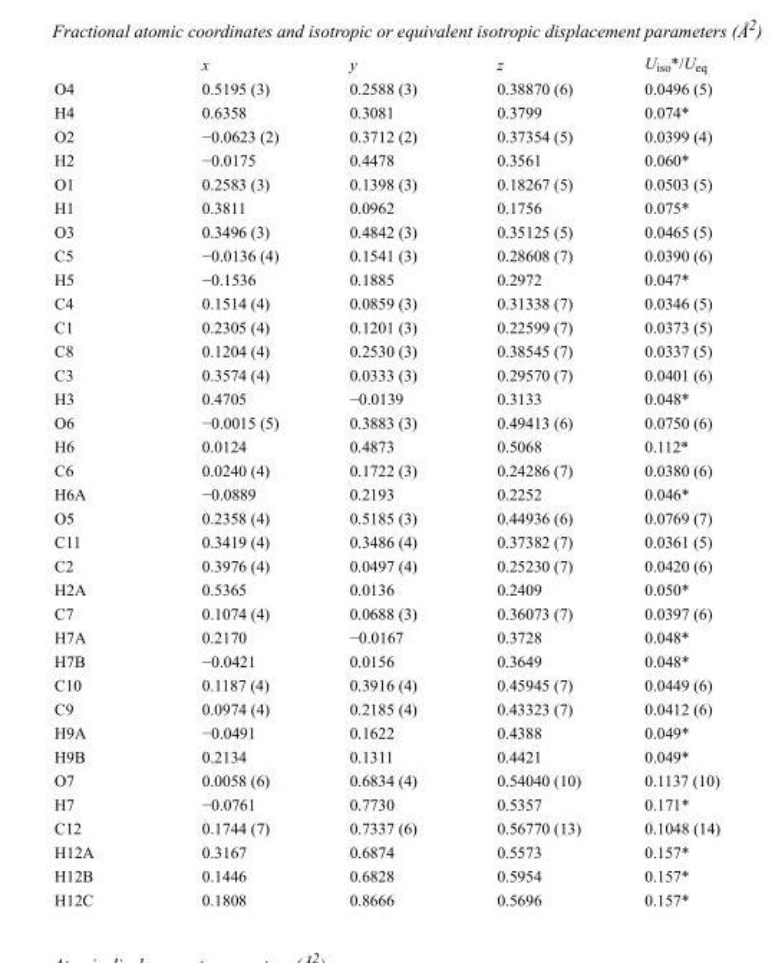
<table><thead><tr><td></td><td>x</td><td>y</td><td>z</td><td>U<sub>iso</sub>*/U<sub>eq</sub></td></tr></thead><tbody><tr><td>O4</td><td>0.5195 (3)</td><td>0.2588 (3)</td><td>0.38870 (6)</td><td>0.0496 (5)</td></tr><tr><td>H4</td><td>0.6358</td><td>0.3081</td><td>0.3799</td><td>0.074*</td></tr><tr><td>O2</td><td>−0.0623 (2)</td><td>0.3712 (2)</td><td>0.37354 (5)</td><td>0.0399 (4)</td></tr><tr><td>H2</td><td>−0.0175</td><td>0.4478</td><td>0.3561</td><td>0.060*</td></tr><tr><td>O1</td><td>0.2583 (3)</td><td>0.1398 (3)</td><td>0.18267 (5)</td><td>0.0503 (5)</td></tr><tr><td>H1</td><td>0.3811</td><td>0.0962</td><td>0.1756</td><td>0.075*</td></tr><tr><td>O3</td><td>0.3496 (3)</td><td>0.4842 (3)</td><td>0.35125 (5)</td><td>0.0465 (5)</td></tr><tr><td>C5</td><td>−0.0136 (4)</td><td>0.1541 (3)</td><td>0.28608 (7)</td><td>0.0390 (6)</td></tr><tr><td>H5</td><td>−0.1536</td><td>0.1885</td><td>0.2972</td><td>0.047*</td></tr><tr><td>C4</td><td>0.1514 (4)</td><td>0.0859 (3)</td><td>0.31338 (7)</td><td>0.0346 (5)</td></tr><tr><td>C1</td><td>0.2305 (4)</td><td>0.1201 (3)</td><td>0.22599 (7)</td><td>0.0373 (5)</td></tr><tr><td>C8</td><td>0.1204 (4)</td><td>0.2530 (3)</td><td>0.38545 (7)</td><td>0.0337 (5)</td></tr><tr><td>C3</td><td>0.3574 (4)</td><td>0.0333 (3)</td><td>0.29570 (7)</td><td>0.0401 (6)</td></tr><tr><td>H3</td><td>0.4705</td><td>−0.0139</td><td>0.3133</td><td>0.048*</td></tr><tr><td>O6</td><td>−0.0015 (5)</td><td>0.3883 (3)</td><td>0.49413 (6)</td><td>0.0750 (6)</td></tr><tr><td>H6</td><td>0.0124</td><td>0.4873</td><td>0.5068</td><td>0.112*</td></tr><tr><td>C6</td><td>0.0240 (4)</td><td>0.1722 (3)</td><td>0.24286 (7)</td><td>0.0380 (6)</td></tr><tr><td>H6A</td><td>−0.0889</td><td>0.2193</td><td>0.2252</td><td>0.046*</td></tr><tr><td>O5</td><td>0.2358 (4)</td><td>0.5185 (3)</td><td>0.44936 (6)</td><td>0.0769 (7)</td></tr><tr><td>C11</td><td>0.3419 (4)</td><td>0.3486 (4)</td><td>0.37382 (7)</td><td>0.0361 (5)</td></tr><tr><td>C2</td><td>0.3976 (4)</td><td>0.0497 (4)</td><td>0.25230 (7)</td><td>0.0420 (6)</td></tr><tr><td>H2A</td><td>0.5365</td><td>0.0136</td><td>0.2409</td><td>0.050*</td></tr><tr><td>C7</td><td>0.1074 (4)</td><td>0.0688 (3)</td><td>0.36073 (7)</td><td>0.0397 (6)</td></tr><tr><td>H7A</td><td>0.2170</td><td>−0.0167</td><td>0.3728</td><td>0.048*</td></tr><tr><td>H7B</td><td>−0.0421</td><td>0.0156</td><td>0.3649</td><td>0.048*</td></tr><tr><td>C10</td><td>0.1187 (4)</td><td>0.3916 (4)</td><td>0.45945 (7)</td><td>0.0449 (6)</td></tr><tr><td>C9</td><td>0.0974 (4)</td><td>0.2185 (4)</td><td>0.43323 (7)</td><td>0.0412 (6)</td></tr><tr><td>H9A</td><td>−0.0491</td><td>0.1622</td><td>0.4388</td><td>0.049*</td></tr><tr><td>H9B</td><td>0.2134</td><td>0.1311</td><td>0.4421</td><td>0.049*</td></tr><tr><td>O7</td><td>0.0058 (6)</td><td>0.6834 (4)</td><td>0.54040 (10)</td><td>0.1137 (10)</td></tr><tr><td>H7</td><td>−0.0761</td><td>0.7730</td><td>0.5357</td><td>0.171*</td></tr><tr><td>C12</td><td>0.1744 (7)</td><td>0.7337 (6)</td><td>0.56770 (13)</td><td>0.1048 (14)</td></tr><tr><td>H12A</td><td>0.3167</td><td>0.6874</td><td>0.5573</td><td>0.157*</td></tr><tr><td>H12B</td><td>0.1446</td><td>0.6828</td><td>0.5954</td><td>0.157*</td></tr><tr><td>H12C</td><td>0.1808</td><td>0.8666</td><td>0.5696</td><td>0.157*</td></tr></tbody></table>